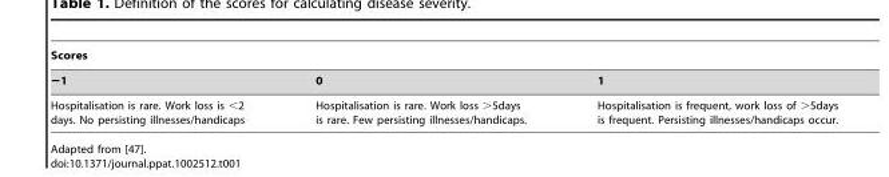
<table><thead><tr><td colspan="3">Scores</td></tr><tr><td>−1</td><td>0</td><td>1</td></tr></thead><tbody><tr><td>Hospitalisation is rare. Work loss is &lt;2 days. No persisting illnesses/handicaps</td><td>Hospitalisation is rare. Work loss &gt;5days is rare. Few persisting illnesses/handicaps.</td><td>Hospitalisation is frequent, work loss of &gt;5days is frequent. Persisting illnesses/handicaps occur.</td></tr></tbody></table>